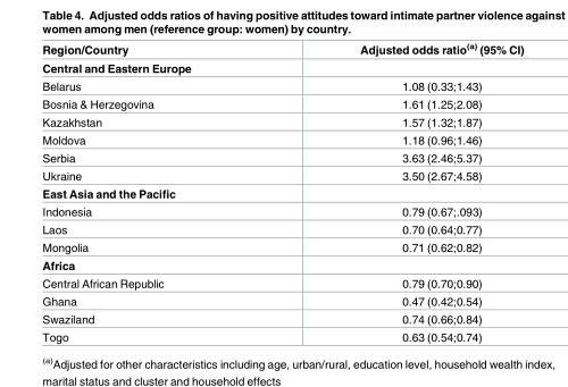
<table><thead><tr><td>Region/Country</td><td>Adjusted odds ratio<sup>(a)</sup> (95% CI)</td></tr></thead><tbody><tr><td colspan="2">Central and Eastern Europe</td></tr><tr><td>Belarus</td><td>1.08 (0.33;1.43)</td></tr><tr><td>Bosnia &amp; Herzegovina</td><td>1.61 (1.25;2.08)</td></tr><tr><td>Kazakhstan</td><td>1.57 (1.32;1.87)</td></tr><tr><td>Moldova</td><td>1.18 (0.96;1.46)</td></tr><tr><td>Serbia</td><td>3.63 (2.46;5.37)</td></tr><tr><td>Ukraine</td><td>3.50 (2.67;4.58)</td></tr><tr><td colspan="2">East Asia and the Pacific</td></tr><tr><td>Indonesia</td><td>0.79 (0.67;.093)</td></tr><tr><td>Laos</td><td>0.70 (0.64;0.77)</td></tr><tr><td>Mongolia</td><td>0.71 (0.62;0.82)</td></tr><tr><td colspan="2">Africa</td></tr><tr><td>Central African Republic</td><td>0.79 (0.70;0.90)</td></tr><tr><td>Ghana</td><td>0.47 (0.42;0.54)</td></tr><tr><td>Swaziland</td><td>0.74 (0.66;0.84)</td></tr><tr><td>Togo</td><td>0.63 (0.54;0.74)</td></tr></tbody></table>